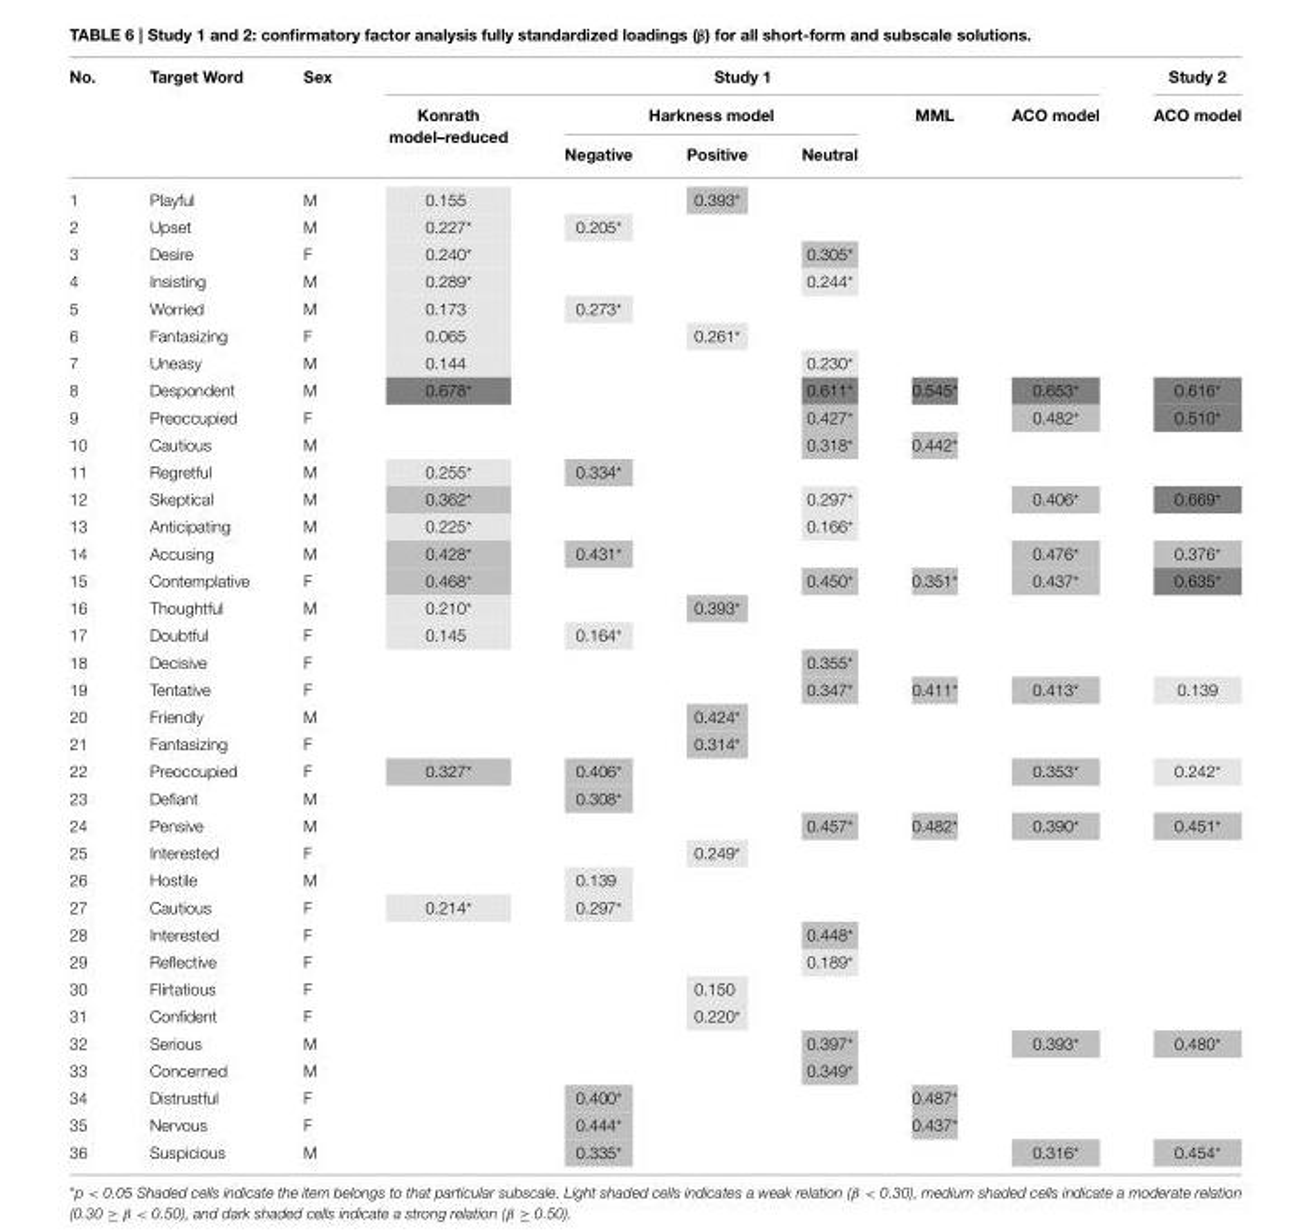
<table><thead><tr><td rowspan="3">No.</td><td rowspan="3">Target Word</td><td rowspan="3">Sex</td><td colspan="6">Study 1</td><td rowspan="3">Study 2 ACO model</td></tr><tr><td rowspan="2">Konrath model–reduced</td><td colspan="3">Harkness model</td><td rowspan="2">MML</td><td rowspan="2">ACO model</td></tr><tr><td>Negative</td><td>Positive</td><td>Neutral</td></tr></thead><tbody><tr><td>1</td><td>Playful</td><td>M</td><td>0.155</td><td></td><td>0.393*</td><td></td><td></td><td></td><td></td></tr><tr><td>2</td><td>Upset</td><td>M</td><td>0.227*</td><td>0.205*</td><td></td><td></td><td></td><td></td><td></td></tr><tr><td>3</td><td>Desire</td><td>F</td><td>0.240*</td><td></td><td></td><td>0.305*</td><td></td><td></td><td></td></tr><tr><td>4</td><td>Insisting</td><td>M</td><td>0.289*</td><td></td><td></td><td>0.244*</td><td></td><td></td><td></td></tr><tr><td>5</td><td>Worried</td><td>M</td><td>0.173</td><td>0.273*</td><td></td><td></td><td></td><td></td><td></td></tr><tr><td>6</td><td>Fantasizing</td><td>F</td><td>0.065</td><td></td><td>0.261*</td><td></td><td></td><td></td><td></td></tr><tr><td>7</td><td>Uneasy</td><td>M</td><td>0.144</td><td></td><td></td><td>0.230*</td><td></td><td></td><td></td></tr><tr><td>8</td><td>Despondent</td><td>M</td><td>0.678*</td><td></td><td></td><td>0.611*</td><td>0.545*</td><td>0.653*</td><td>0.616*</td></tr><tr><td>9</td><td>Preoccupied</td><td>F</td><td></td><td></td><td></td><td>0.427*</td><td></td><td>0.482*</td><td>0.510*</td></tr><tr><td>10</td><td>Cautious</td><td>M</td><td></td><td></td><td></td><td>0.318*</td><td>0.442*</td><td></td><td></td></tr><tr><td>11</td><td>Regretful</td><td>M</td><td>0.255*</td><td>0.334*</td><td></td><td></td><td></td><td></td><td></td></tr><tr><td>12</td><td>Skeptical</td><td>M</td><td>0.362*</td><td></td><td></td><td>0.297*</td><td></td><td>0.406*</td><td>0.669*</td></tr><tr><td>13</td><td>Anticipating</td><td>M</td><td>0.225*</td><td></td><td></td><td>0.166*</td><td></td><td></td><td></td></tr><tr><td>14</td><td>Accusing</td><td>M</td><td>0.428*</td><td>0.431*</td><td></td><td></td><td></td><td>0.476*</td><td>0.376*</td></tr><tr><td>15</td><td>Contemplative</td><td>F</td><td>0.468*</td><td></td><td></td><td>0.450*</td><td>0.351*</td><td>0.437*</td><td>0.635*</td></tr><tr><td>16</td><td>Thoughtful</td><td>M</td><td>0.210*</td><td></td><td>0.393*</td><td></td><td></td><td></td><td></td></tr><tr><td>17</td><td>Doubtful</td><td>F</td><td>0.145</td><td>0.164*</td><td></td><td></td><td></td><td></td><td></td></tr><tr><td>18</td><td>Decisive</td><td>F</td><td></td><td></td><td></td><td>0.355*</td><td></td><td></td><td></td></tr><tr><td>19</td><td>Tentative</td><td>F</td><td></td><td></td><td></td><td>0.347*</td><td>0.411*</td><td>0.413*</td><td>0.139</td></tr><tr><td>20</td><td>Friendly</td><td>M</td><td></td><td></td><td>0.424*</td><td></td><td></td><td></td><td></td></tr><tr><td>21</td><td>Fantasizing</td><td>F</td><td></td><td></td><td>0.314*</td><td></td><td></td><td></td><td></td></tr><tr><td>22</td><td>Preoccupied</td><td>F</td><td>0.327*</td><td>0.406*</td><td></td><td></td><td></td><td>0.353*</td><td>0.242*</td></tr><tr><td>23</td><td>Defiant</td><td>M</td><td></td><td>0.308*</td><td></td><td></td><td></td><td></td><td></td></tr><tr><td>24</td><td>Pensive</td><td>M</td><td></td><td></td><td></td><td>0.457*</td><td>0.482*</td><td>0.390*</td><td>0.451*</td></tr><tr><td>25</td><td>Interested</td><td>F</td><td></td><td></td><td>0.249*</td><td></td><td></td><td></td><td></td></tr><tr><td>26</td><td>Hostile</td><td>M</td><td></td><td>0.139</td><td></td><td></td><td></td><td></td><td></td></tr><tr><td>27</td><td>Cautious</td><td>F</td><td>0.214*</td><td>0.297*</td><td></td><td></td><td></td><td></td><td></td></tr><tr><td>28</td><td>Interested</td><td>F</td><td></td><td></td><td></td><td>0.448*</td><td></td><td></td><td></td></tr><tr><td>29</td><td>Reflective</td><td>F</td><td></td><td></td><td></td><td>0.189*</td><td></td><td></td><td></td></tr><tr><td>30</td><td>Flirtatious</td><td>F</td><td></td><td></td><td>0.150</td><td></td><td></td><td></td><td></td></tr><tr><td>31</td><td>Confident</td><td>F</td><td></td><td></td><td>0.220*</td><td></td><td></td><td></td><td></td></tr><tr><td>32</td><td>Serious</td><td>M</td><td></td><td></td><td></td><td>0.397*</td><td></td><td>0.393*</td><td>0.480*</td></tr><tr><td>33</td><td>Concerned</td><td>M</td><td></td><td></td><td></td><td>0.349*</td><td></td><td></td><td></td></tr><tr><td>34</td><td>Distrustful</td><td>F</td><td></td><td>0.400*</td><td></td><td></td><td>0.487*</td><td></td><td></td></tr><tr><td>35</td><td>Nervous</td><td>F</td><td></td><td>0.444*</td><td></td><td></td><td>0.437*</td><td></td><td></td></tr><tr><td>36</td><td>Suspicious</td><td>M</td><td></td><td>0.335*</td><td></td><td></td><td></td><td>0.316*</td><td>0.454*</td></tr></tbody></table>